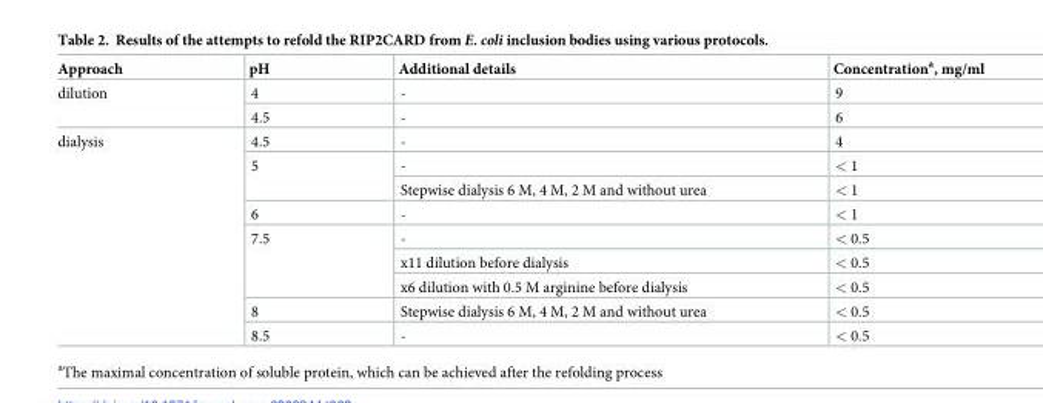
<table><thead><tr><td>Approach</td><td>pH</td><td>Additional details</td><td>Concentration<sup>a</sup>, mg/ml</td></tr></thead><tbody><tr><td rowspan="2">dilution</td><td>4</td><td>-</td><td>9</td></tr><tr><td>4.5</td><td>-</td><td>6</td></tr><tr><td rowspan="9">dialysis</td><td>4.5</td><td>-</td><td>4</td></tr><tr><td rowspan="2">5</td><td>-</td><td>&lt; 1</td></tr><tr><td>Stepwise dialysis 6 M, 4 M, 2 M and without urea</td><td>&lt; 1</td></tr><tr><td>6</td><td>-</td><td>&lt; 1</td></tr><tr><td rowspan="3">7.5</td><td>-</td><td>&lt; 0.5</td></tr><tr><td>x11 dilution before dialysis</td><td>&lt; 0.5</td></tr><tr><td>x6 dilution with 0.5 M arginine before dialysis</td><td>&lt; 0.5</td></tr><tr><td>8</td><td>Stepwise dialysis 6 M, 4 M, 2 M and without urea</td><td>&lt; 0.5</td></tr><tr><td>8.5</td><td>-</td><td>&lt; 0.5</td></tr></tbody></table>